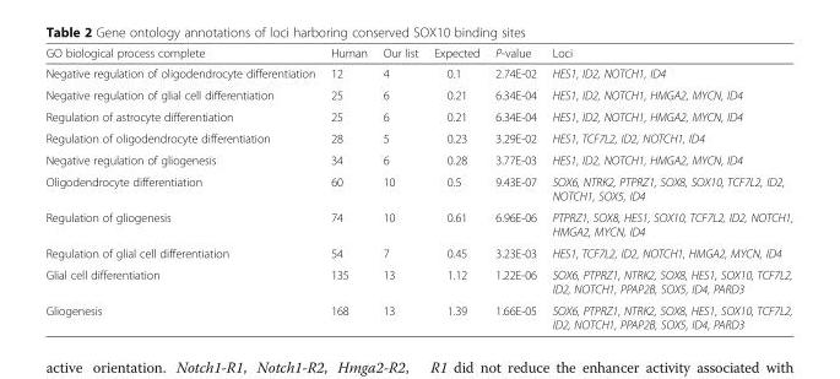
<table><thead><tr><td>GO biological process complete</td><td>Human</td><td>Our list</td><td>Expected</td><td>P-value</td><td>Loci</td></tr></thead><tbody><tr><td>Negative regulation of oligodendrocyte differentiation</td><td>12</td><td>4</td><td>0.1</td><td>2.74E-02</td><td>HES1, ID2, NOTCH1, ID4</td></tr><tr><td>Negative regulation of glial cell differentiation</td><td>25</td><td>6</td><td>0.21</td><td>6.34E-04</td><td>HES1, ID2, NOTCH1, HMGA2, MYCN, ID4</td></tr><tr><td>Regulation of astrocyte differentiation</td><td>25</td><td>6</td><td>0.21</td><td>6.34E-04</td><td>HES1, ID2, NOTCH1, HMGA2, MYCN, ID4</td></tr><tr><td>Regulation of oligodendrocyte differentiation</td><td>28</td><td>5</td><td>0.23</td><td>3.29E-02</td><td>HES1, TCF7L2, ID2, NOTCH1, ID4</td></tr><tr><td>Negative regulation of gliogenesis</td><td>34</td><td>6</td><td>0.28</td><td>3.77E-03</td><td>HES1, ID2, NOTCH1, HMGA2, MYCN, ID4</td></tr><tr><td>Oligodendrocyte differentiation</td><td>60</td><td>10</td><td>0.5</td><td>9.43E-07</td><td>SOX6, NTRK2, PTPRZ1, SOX8, SOX10, TCF7L2, ID2, NOTCH1, SOX5, ID4</td></tr><tr><td>Regulation of gliogenesis</td><td>74</td><td>10</td><td>0.61</td><td>6.96E-06</td><td>PTPRZ1, SOX8, HES1, SOX10, TCF7L2, ID2, NOTCH1, HMGA2, MYCN, ID4</td></tr><tr><td>Regulation of glial cell differentiation</td><td>54</td><td>7</td><td>0.45</td><td>3.23E-03</td><td>HES1, TCF7L2, ID2, NOTCH1, HMGA2, MYCN, ID4</td></tr><tr><td>Glial cell differentiation</td><td>135</td><td>13</td><td>1.12</td><td>1.22E-06</td><td>SOX6, PTPRZ1, NTRK2, SOX8, HES1, SOX10, TCF7L2, ID2, NOTCH1, PPAP2B, SOX5, ID4, PARD3</td></tr><tr><td>Gliogenesis</td><td>168</td><td>13</td><td>1.39</td><td>1.66E-05</td><td>SOX6, PTPRZ1, NTRK2, SOX8, HES1, SOX10, TCF7L2, ID2, NOTCH1, PPAP2B, SOX5, ID4, PARD3</td></tr></tbody></table>